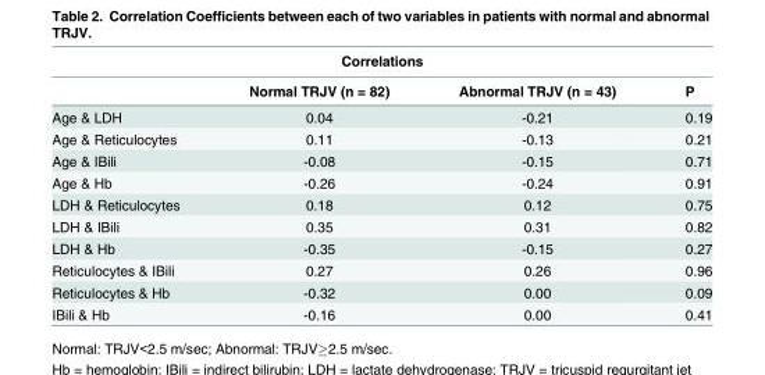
<table><thead><tr><td colspan="4">Correlations</td></tr><tr><td></td><td>Normal TRJV (n = 82)</td><td>Abnormal TRJV (n = 43)</td><td>P</td></tr></thead><tbody><tr><td>Age &amp; LDH</td><td>0.04</td><td>-0.21</td><td>0.19</td></tr><tr><td>Age &amp; Reticulocytes</td><td>0.11</td><td>-0.13</td><td>0.21</td></tr><tr><td>Age &amp; IBili</td><td>-0.08</td><td>-0.15</td><td>0.71</td></tr><tr><td>Age &amp; Hb</td><td>-0.26</td><td>-0.24</td><td>0.91</td></tr><tr><td>LDH &amp; Reticulocytes</td><td>0.18</td><td>0.12</td><td>0.75</td></tr><tr><td>LDH &amp; IBili</td><td>0.35</td><td>0.31</td><td>0.82</td></tr><tr><td>LDH &amp; Hb</td><td>-0.35</td><td>-0.15</td><td>0.27</td></tr><tr><td>Reticulocytes &amp; IBili</td><td>0.27</td><td>0.26</td><td>0.96</td></tr><tr><td>Reticulocytes &amp; Hb</td><td>-0.32</td><td>0.00</td><td>0.09</td></tr><tr><td>IBili &amp; Hb</td><td>-0.16</td><td>0.00</td><td>0.41</td></tr></tbody></table>